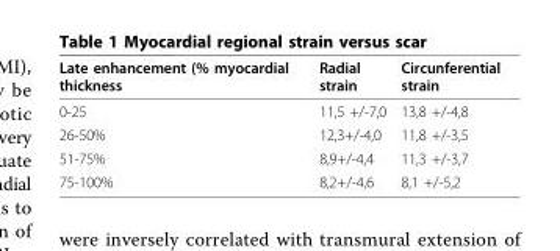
<table><thead><tr><td>Late enhancement (% myocardial thickness</td><td>Radial strain</td><td>Circunferential strain</td></tr></thead><tbody><tr><td>0-25</td><td>11,5 +/-7,0</td><td>13,8 +/-4,8</td></tr><tr><td>26-50%</td><td>12,3+/-4,0</td><td>11,8 +/-3,5</td></tr><tr><td>51-75%</td><td>8,9+/-4,4</td><td>11,3 +/-3,7</td></tr><tr><td>75-100%</td><td>8,2+/-4,6</td><td>8,1 +/-5,2</td></tr></tbody></table>